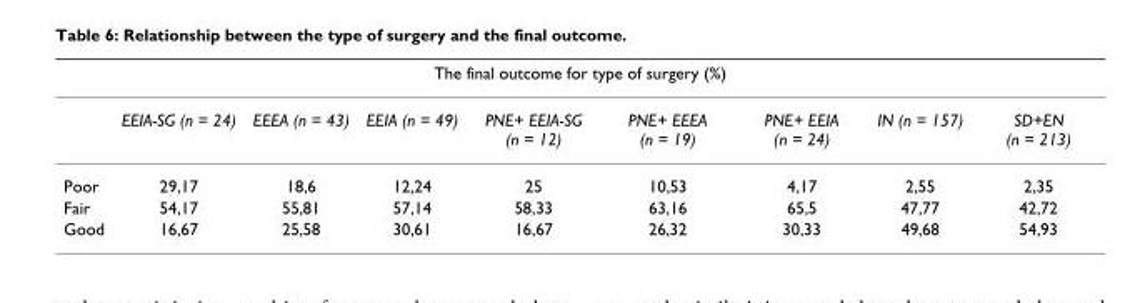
<table><thead><tr><td colspan="9">The final outcome for type of surgery (%)</td></tr><tr><td></td><td>EEIA-SG (n = 24)</td><td>EEEA (n = 43)</td><td>EEIA (n = 49)</td><td>PNE+ EEIA-SG (n = 12)</td><td>PNE+ EEEA (n = 19)</td><td>PNE+ EEIA (n = 24)</td><td>IN (n = 157)</td><td>SD+EN (n = 213)</td></tr></thead><tbody><tr><td>Poor</td><td>29,17</td><td>18,6</td><td>12,24</td><td>25</td><td>10,53</td><td>4,17</td><td>2,55</td><td>2,35</td></tr><tr><td>Fair</td><td>54,17</td><td>55,81</td><td>57,14</td><td>58,33</td><td>63,16</td><td>65,5</td><td>47,77</td><td>42,72</td></tr><tr><td>Good</td><td>16,67</td><td>25,58</td><td>30,61</td><td>16,67</td><td>26,32</td><td>30,33</td><td>49,68</td><td>54,93</td></tr></tbody></table>